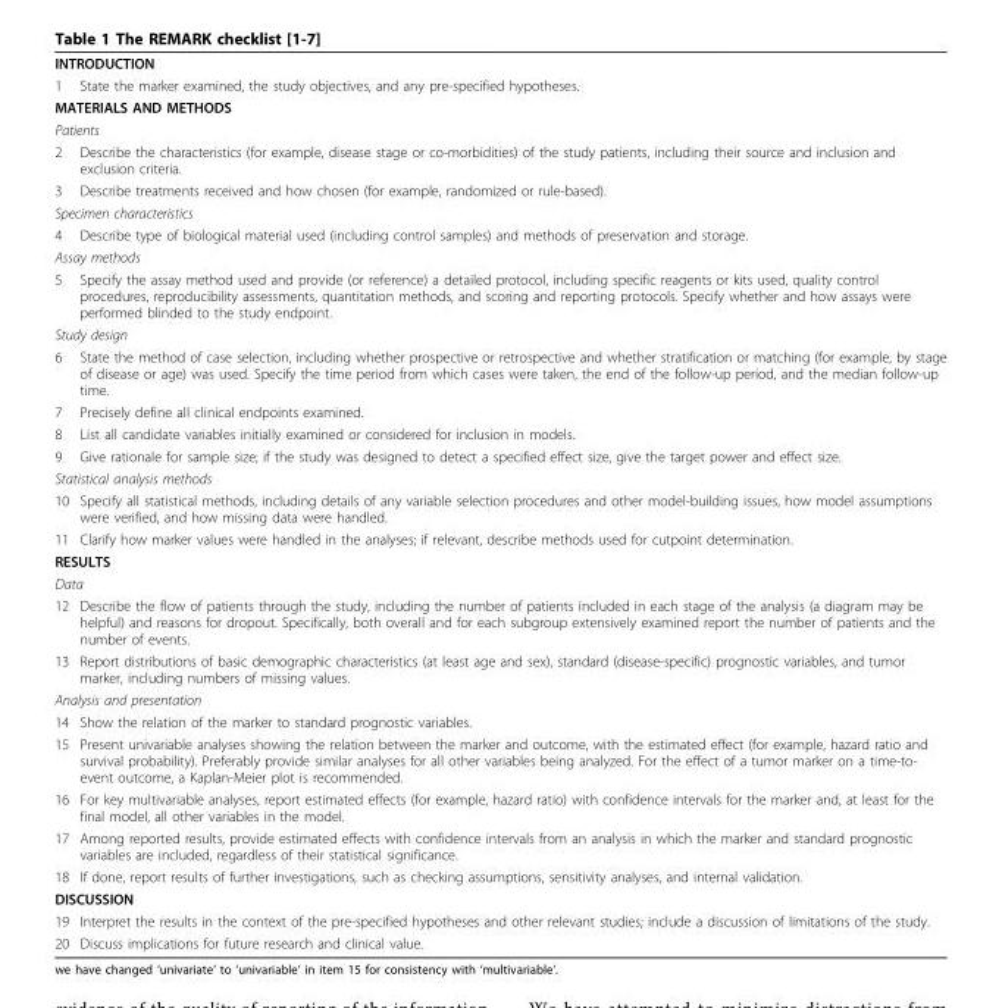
<table><tbody><tr><td colspan="2">INTRODUCTION</td></tr><tr><td>1</td><td>State the marker examined, the study objectives, and any pre-specified hypotheses.</td></tr><tr><td colspan="2">MATERIALS AND METHODS</td></tr><tr><td colspan="2">Patients</td></tr><tr><td>2</td><td>Describe the characteristics (for example, disease stage or co-morbidities) of the study patients, including their source and inclusion and exclusion criteria.</td></tr><tr><td>3</td><td>Describe treatments received and how chosen (for example, randomized or rule-based).</td></tr><tr><td colspan="2">Specimen characteristics</td></tr><tr><td>4</td><td>Describe type of biological material used (including control samples) and methods of preservation and storage.</td></tr><tr><td colspan="2">Assay methods</td></tr><tr><td>5</td><td>Specify the assay method used and provide (or reference) a detailed protocol, including specific reagents or kits used, quality control procedures, reproducibility assessments, quantitation methods, and scoring and reporting protocols. Specify whether and how assays were performed blinded to the study endpoint.</td></tr><tr><td colspan="2">Study design</td></tr><tr><td>6</td><td>State the method of case selection, including whether prospective or retrospective and whether stratification or matching (for example, by stage of disease or age) was used. Specify the time period from which cases were taken, the end of the follow-up period, and the median follow-up time.</td></tr><tr><td>7</td><td>Precisely define all clinical endpoints examined.</td></tr><tr><td>8</td><td>List all candidate variables initially examined or considered for inclusion in models.</td></tr><tr><td>9</td><td>Give rationale for sample size; if the study was designed to detect a specified effect size, give the target power and effect size.</td></tr><tr><td colspan="2">Statistical analysis methods</td></tr><tr><td>10</td><td>Specify all statistical methods, including details of any variable selection procedures and other model-building issues, how model assumptions were verified, and how missing data were handled.</td></tr><tr><td>11</td><td>Clarify how marker values were handled in the analyses; if relevant, describe methods used for cutpoint determination.</td></tr><tr><td colspan="2">RESULTS</td></tr><tr><td colspan="2">Data</td></tr><tr><td>12</td><td>Describe the flow of patients through the study, including the number of patients included in each stage of the analysis (a diagram may be helpful) and reasons for dropout. Specifically, both overall and for each subgroup extensively examined report the number of patients and the number of events.</td></tr><tr><td>13</td><td>Report distributions of basic demographic characteristics (at least age and sex), standard (disease-specific) prognostic variables, and tumor marker, including numbers of missing values.</td></tr><tr><td colspan="2">Analysis and presentation</td></tr><tr><td>14</td><td>Show the relation of the marker to standard prognostic variables.</td></tr><tr><td>15</td><td>Present univariable analyses showing the relation between the marker and outcome, with the estimated effect (for example, hazard ratio and survival probability). Preferably provide similar analyses for all other variables being analyzed. For the effect of a tumor marker on a time-to- event outcome, a Kaplan-Meier plot is recommended.</td></tr><tr><td>16</td><td>For key multivariable analyses, report estimated effects (for example, hazard ratio) with confidence intervals for the marker and, at least for the final model, all other variables in the model.</td></tr><tr><td>17</td><td>Among reported results, provide estimated effects with confidence intervals from an analysis in which the marker and standard prognostic variables are included, regardless of their statistical significance.</td></tr><tr><td>18</td><td>If done, report results of further investigations, such as checking assumptions, sensitivity analyses, and internal validation.</td></tr><tr><td colspan="2">DISCUSSION</td></tr><tr><td>19</td><td>Interpret the results in the context of the pre-specified hypotheses and other relevant studies; include a discussion of limitations of the study.</td></tr><tr><td>20</td><td>Discuss implications for future research and clinical value.</td></tr></tbody></table>